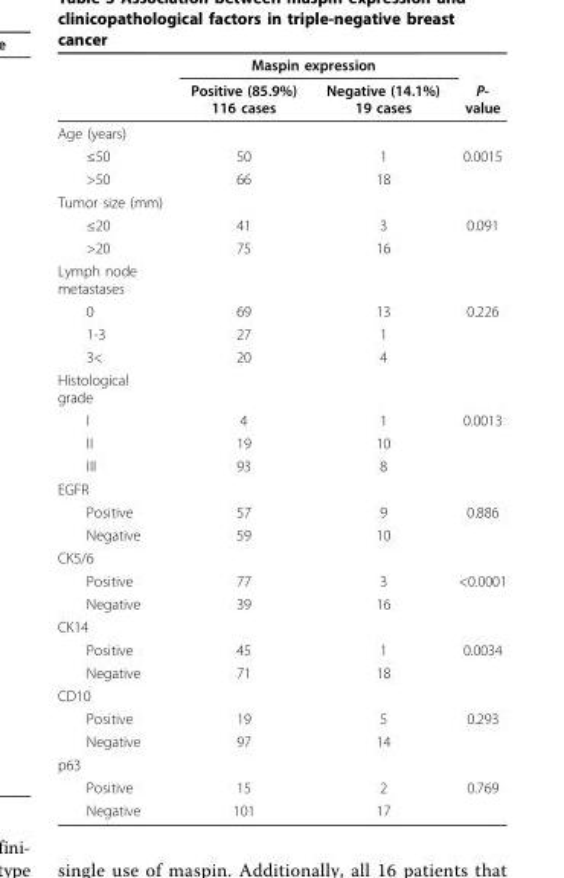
<table><thead><tr><td rowspan="2"></td><td colspan="2">Maspin expression</td><td rowspan="2">P- value</td></tr><tr><td>Positive (85.9%) 116 cases</td><td>Negative (14.1%) 19 cases</td></tr></thead><tbody><tr><td colspan="4">Age (years)</td></tr><tr><td>≤50</td><td>50</td><td>1</td><td>0.0015</td></tr><tr><td>&gt;50</td><td>66</td><td>18</td><td></td></tr><tr><td colspan="4">Tumor size (mm)</td></tr><tr><td>≤20</td><td>41</td><td>3</td><td>0.091</td></tr><tr><td>&gt;20</td><td>75</td><td>16</td><td></td></tr><tr><td colspan="4">Lymph node metastases</td></tr><tr><td>0</td><td>69</td><td>13</td><td>0.226</td></tr><tr><td>1-3</td><td>27</td><td>1</td><td></td></tr><tr><td>3&lt;</td><td>20</td><td>4</td><td></td></tr><tr><td colspan="4">Histological grade</td></tr><tr><td>I</td><td>4</td><td>1</td><td>0.0013</td></tr><tr><td>II</td><td>19</td><td>10</td><td></td></tr><tr><td>III</td><td>93</td><td>8</td><td></td></tr><tr><td colspan="4">EGFR</td></tr><tr><td>Positive</td><td>57</td><td>9</td><td>0.886</td></tr><tr><td>Negative</td><td>59</td><td>10</td><td></td></tr><tr><td colspan="4">CK5/6</td></tr><tr><td>Positive</td><td>77</td><td>3</td><td>&lt;0.0001</td></tr><tr><td>Negative</td><td>39</td><td>16</td><td></td></tr><tr><td colspan="4">CK14</td></tr><tr><td>Positive</td><td>45</td><td>1</td><td>0.0034</td></tr><tr><td>Negative</td><td>71</td><td>18</td><td></td></tr><tr><td colspan="4">CD10</td></tr><tr><td>Positive</td><td>19</td><td>5</td><td>0.293</td></tr><tr><td>Negative</td><td>97</td><td>14</td><td></td></tr><tr><td colspan="4">p63</td></tr><tr><td>Positive</td><td>15</td><td>2</td><td>0.769</td></tr><tr><td>Negative</td><td>101</td><td>17</td><td></td></tr></tbody></table>